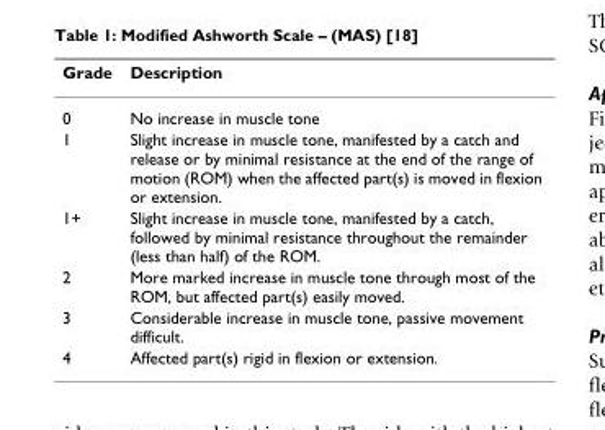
<table><thead><tr><td>Grade</td><td>Description</td></tr></thead><tbody><tr><td>0</td><td>No increase in muscle tone</td></tr><tr><td>1</td><td>Slight increase in muscle tone, manifested by a catch and release or by minimal resistance at the end of the range of motion (ROM) when the affected part(s) is moved in flexion or extension.</td></tr><tr><td>1+</td><td>Slight increase in muscle tone, manifested by a catch, followed by minimal resistance throughout the remainder (less than half) of the ROM.</td></tr><tr><td>2</td><td>More marked increase in muscle tone through most of the ROM, but affected part(s) easily moved.</td></tr><tr><td>3</td><td>Considerable increase in muscle tone, passive movement difficult.</td></tr><tr><td>4</td><td>Affected part(s) rigid in flexion or extension.</td></tr></tbody></table>